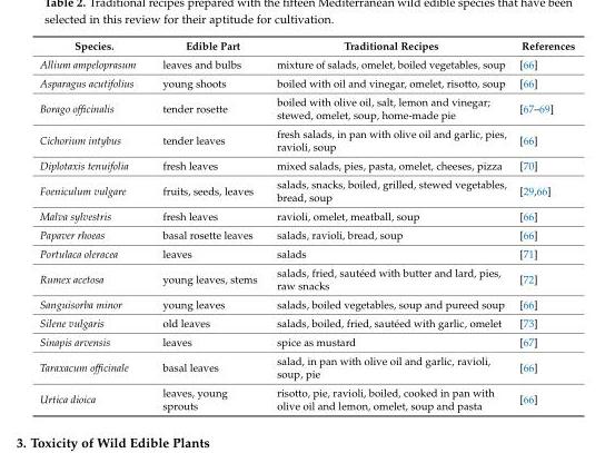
<table><thead><tr><td>Species.</td><td>Edible Part</td><td>Traditional Recipes</td><td>References</td></tr></thead><tbody><tr><td>Allium ampeloprasum</td><td>leaves and bulbs</td><td>mixture of salads, omelet, boiled vegetables, soup</td><td>[66]</td></tr><tr><td>Asparagus acutifolius</td><td>young shoots</td><td>boiled with oil and vinegar, omelet, risotto, soup</td><td>[66]</td></tr><tr><td>Borago officinalis</td><td>tender rosette</td><td>boiled with olive oil, salt, lemon and vinegar; stewed, omelet, soup, home-made pie</td><td>[67–69]</td></tr><tr><td>Cichorium intybus</td><td>tender leaves</td><td>fresh salads, in pan with olive oil and garlic, pies, ravioli, soup</td><td>[66]</td></tr><tr><td>Diplotaxis tenuifolia</td><td>fresh leaves</td><td>mixed salads, pies, pasta, omelet, cheeses, pizza</td><td>[70]</td></tr><tr><td>Foeniculum vulgare</td><td>fruits, seeds, leaves</td><td>salads, snacks, boiled, grilled, stewed vegetables, bread, soup</td><td>[29,66]</td></tr><tr><td>Malva sylvestris</td><td>fresh leaves</td><td>ravioli, omelet, meatball, soup</td><td>[66]</td></tr><tr><td>Papaver rhoeas</td><td>basal rosette leaves</td><td>salads, ravioli, bread, soup</td><td>[66]</td></tr><tr><td>Portulaca oleracea</td><td>leaves</td><td>salads</td><td>[71]</td></tr><tr><td>Rumex acetosa</td><td>young leaves, stems</td><td>salads, fried, sautéed with butter and lard, pies, raw snacks</td><td>[72]</td></tr><tr><td>Sanguisorba minor</td><td>young leaves</td><td>salads, boiled vegetables, soup and pureed soup</td><td>[66]</td></tr><tr><td>Silene vulgaris</td><td>old leaves</td><td>salads, boiled, fried, sautéed with garlic, omelet</td><td>[73]</td></tr><tr><td>Sinapis arvensis</td><td>leaves</td><td>spice as mustard</td><td>[67]</td></tr><tr><td>Taraxacum officinale</td><td>basal leaves</td><td>salad, in pan with olive oil and garlic, ravioli, soup, pie</td><td>[66]</td></tr><tr><td>Urtica dioica</td><td>leaves, young sprouts</td><td>risotto, pie, ravioli, boiled, cooked in pan with olive oil and lemon, omelet, soup and pasta</td><td>[66]</td></tr></tbody></table>